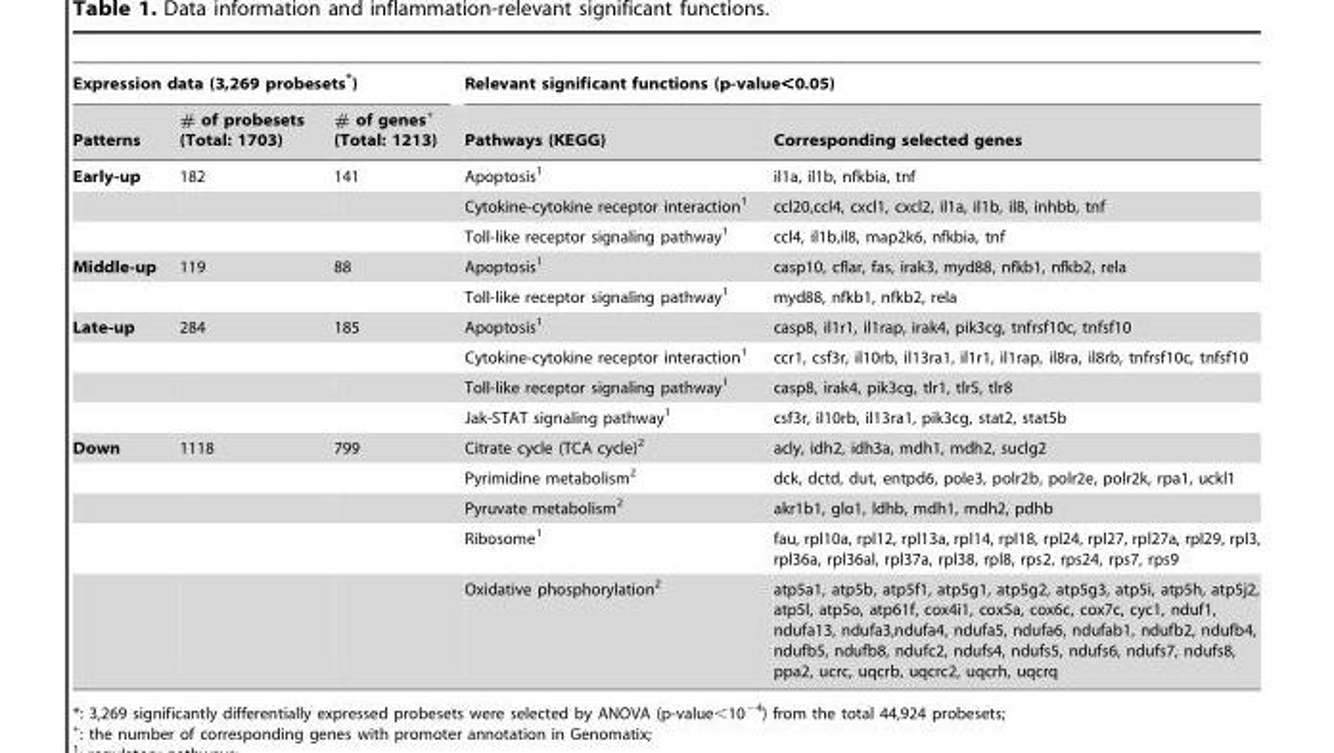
<table><thead><tr><td colspan="3">Expression data (3,269 probesets*)</td><td colspan="2">Relevant significant functions (p-value&lt;0.05)</td></tr><tr><td>Patterns</td><td># of probesets (Total: 1703)</td><td># of genes+ (Total: 1213)</td><td>Pathways (KEGG)</td><td>Corresponding selected genes</td></tr></thead><tbody><tr><td rowspan="3">Early-up</td><td>182</td><td>141</td><td>Apoptosis<sup>1</sup></td><td>il1a, il1b, nfkbia, tnf</td></tr><tr><td></td><td></td><td>Cytokine-cytokine receptor interaction<sup>1</sup></td><td>ccl20,ccl4, cxcl1, cxcl2, il1a, il1b, il8, inhbb, tnf</td></tr><tr><td></td><td></td><td>Toll-like receptor signaling pathway<sup>1</sup></td><td>ccl4, il1b,il8, map2k6, nfkbia, tnf</td></tr><tr><td rowspan="2">Middle-up</td><td>119</td><td>88</td><td>Apoptosis<sup>1</sup></td><td>casp10, cflar, fas, irak3, myd88, nfkb1, nfkb2, rela</td></tr><tr><td></td><td></td><td>Toll-like receptor signaling pathway<sup>1</sup></td><td>myd88, nfkb1, nfkb2, rela</td></tr><tr><td rowspan="4">Late-up</td><td>284</td><td>185</td><td>Apoptosis<sup>1</sup></td><td>casp8, il1r1, il1rap, irak4, pik3cg, tnfrsf10c, tnfsf10</td></tr><tr><td></td><td></td><td>Cytokine-cytokine receptor interaction<sup>1</sup></td><td>ccr1, csf3r, il10rb, il13ra1, il1r1, il1rap, il8ra, il8rb, tnfrsf10c, tnfsf10</td></tr><tr><td></td><td></td><td>Toll-like receptor signaling pathway<sup>1</sup></td><td>casp8, irak4, pik3cg, tlr1, tlr5, tlr8</td></tr><tr><td></td><td></td><td>Jak-STAT signaling pathway<sup>1</sup></td><td>csf3r, il10rb, il13ra1, pik3cg, stat2, stat5b</td></tr><tr><td rowspan="5">Down</td><td>1118</td><td>799</td><td>Citrate cycle (TCA cycle)<sup>2</sup></td><td>acly, idh2, idh3a, mdh1, mdh2, suclg2</td></tr><tr><td></td><td></td><td>Pyrimidine metabolism<sup>2</sup></td><td>dck, dctd, dut, entpd6, pole3, polr2b, polr2e, polr2k, rpa1, uckl1</td></tr><tr><td></td><td></td><td>Pyruvate metabolism<sup>2</sup></td><td>akr1b1, glo1, ldhb, mdh1, mdh2, pdhb</td></tr><tr><td></td><td></td><td>Ribosome<sup>1</sup></td><td>fau, rpl10a, rpl12, rpl13a, rpl14, rpl18, rpl24, rpl27, rpl27a, rpl29, rpl3, rpl36a, rpl36al, rpl37a, rpl38, rpl8, rps2, rps24, rps7, rps9</td></tr><tr><td></td><td></td><td>Oxidative phosphorylation<sup>2</sup></td><td>atp5a1, atp5b, atp5f1, atp5g1, atp5g2, atp5g3, atp5i, atp5h, atp5j2, atp5l, atp5o, atp61f, cox4i1, cox5a, cox6c, cox7c, cyc1, nduf1, ndufa13, ndufa3,ndufa4, ndufa5, ndufa6, ndufab1, ndufb2, ndufb4, ndufb5, ndufb8, ndufc2, ndufs4, ndufs5, ndufs6, ndufs7, ndufs8, ppa2, ucrc, uqcrb, uqcrc2, uqcrh, uqcrq</td></tr></tbody></table>